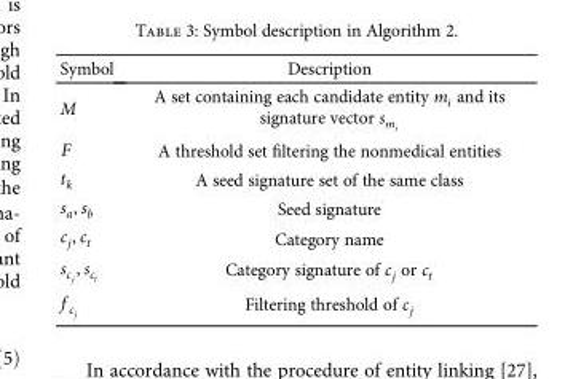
<table><thead><tr><td>Symbol</td><td>Description</td></tr></thead><tbody><tr><td>M</td><td>A set containing each candidate entity mi and its signature vector smi</td></tr><tr><td>F</td><td>A threshold set filtering the nonmedical entities</td></tr><tr><td>t<sub>k</sub></td><td>A seed signature set of the same class</td></tr><tr><td>s<sub>a</sub>, s<sub>b</sub></td><td>Seed signature</td></tr><tr><td>c<sub>j</sub>, c<sub>t</sub></td><td>Category name</td></tr><tr><td>scj, sct</td><td>Category signature of c<sub>j</sub> or c<sub>t</sub></td></tr><tr><td>f cj</td><td>Filtering threshold of c<sub>j</sub></td></tr></tbody></table>